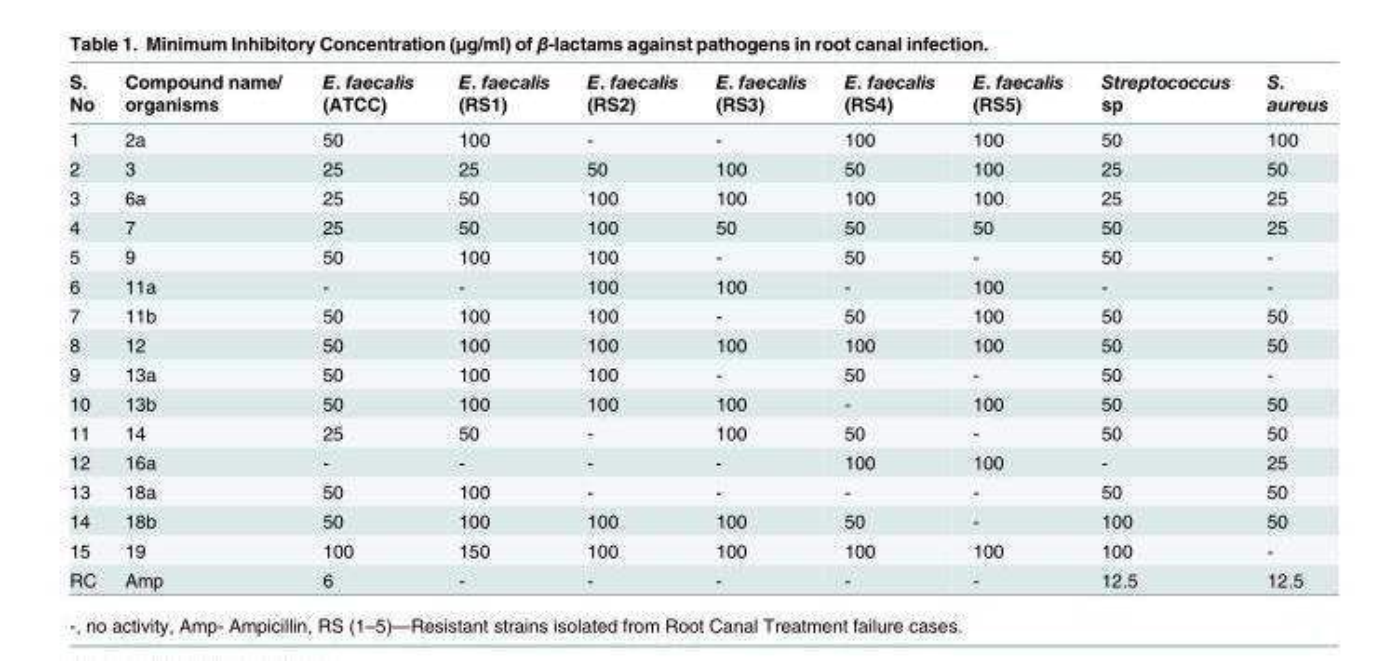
<table><thead><tr><td>S. No</td><td>Compound name/ organisms</td><td>E. faecalis (ATCC)</td><td>E. faecalis (RS1)</td><td>E. faecalis (RS2)</td><td>E. faecalis (RS3)</td><td>E. faecalis (RS4)</td><td>E. faecalis (RS5)</td><td>Streptococcus sp</td><td>S. aureus</td></tr></thead><tbody><tr><td>1</td><td>2a</td><td>50</td><td>100</td><td>-</td><td>-</td><td>100</td><td>100</td><td>50</td><td>100</td></tr><tr><td>2</td><td>3</td><td>25</td><td>25</td><td>50</td><td>100</td><td>50</td><td>100</td><td>25</td><td>50</td></tr><tr><td>3</td><td>6a</td><td>25</td><td>50</td><td>100</td><td>100</td><td>100</td><td>100</td><td>25</td><td>25</td></tr><tr><td>4</td><td>7</td><td>25</td><td>50</td><td>100</td><td>50</td><td>50</td><td>50</td><td>50</td><td>25</td></tr><tr><td>5</td><td>9</td><td>50</td><td>100</td><td>100</td><td>-</td><td>50</td><td>-</td><td>50</td><td>-</td></tr><tr><td>6</td><td>11a</td><td>-</td><td>-</td><td>100</td><td>100</td><td>-</td><td>100</td><td>-</td><td>-</td></tr><tr><td>7</td><td>11b</td><td>50</td><td>100</td><td>100</td><td>-</td><td>50</td><td>100</td><td>50</td><td>50</td></tr><tr><td>8</td><td>12</td><td>50</td><td>100</td><td>100</td><td>100</td><td>100</td><td>100</td><td>50</td><td>50</td></tr><tr><td>9</td><td>13a</td><td>50</td><td>100</td><td>100</td><td>-</td><td>50</td><td>-</td><td>50</td><td>-</td></tr><tr><td>10</td><td>13b</td><td>50</td><td>100</td><td>100</td><td>100</td><td>-</td><td>100</td><td>50</td><td>50</td></tr><tr><td>11</td><td>14</td><td>25</td><td>50</td><td>-</td><td>100</td><td>50</td><td>-</td><td>50</td><td>50</td></tr><tr><td>12</td><td>16a</td><td>-</td><td>-</td><td>-</td><td>-</td><td>100</td><td>100</td><td>-</td><td>25</td></tr><tr><td>13</td><td>18a</td><td>50</td><td>100</td><td>-</td><td>-</td><td>-</td><td>-</td><td>50</td><td>50</td></tr><tr><td>14</td><td>18b</td><td>50</td><td>100</td><td>100</td><td>100</td><td>50</td><td>-</td><td>100</td><td>50</td></tr><tr><td>15</td><td>19</td><td>100</td><td>150</td><td>100</td><td>100</td><td>100</td><td>100</td><td>100</td><td>-</td></tr><tr><td>RC</td><td>Amp</td><td>6</td><td>-</td><td>-</td><td>-</td><td>-</td><td>-</td><td>12.5</td><td>12.5</td></tr></tbody></table>